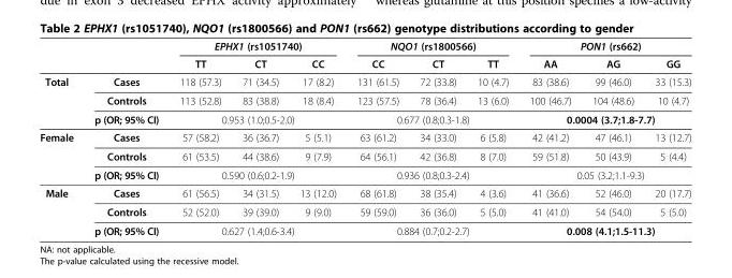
<table><thead><tr><td rowspan="2"></td><td rowspan="2"></td><td colspan="3">EPHX1 (rs1051740)</td><td colspan="3">NQO1 (rs1800566)</td><td colspan="3">PON1 (rs662)</td></tr><tr><td>TT</td><td>CT</td><td>CC</td><td>CC</td><td>CT</td><td>TT</td><td>AA</td><td>AG</td><td>GG</td></tr></thead><tbody><tr><td rowspan="3">Total</td><td>Cases</td><td>118 (57.3)</td><td>71 (34.5)</td><td>17 (8.2)</td><td>131 (61.5)</td><td>72 (33.8)</td><td>10 (4.7)</td><td>83 (38.6)</td><td>99 (46.0)</td><td>33 (15.3)</td></tr><tr><td>Controls</td><td>113 (52.8)</td><td>83 (38.8)</td><td>18 (8.4)</td><td>123 (57.5)</td><td>78 (36.4)</td><td>13 (6.0)</td><td>100 (46.7)</td><td>104 (48.6)</td><td>10 (4.7)</td></tr><tr><td>p (OR; 95% CI)</td><td colspan="3">0.953 (1.0;0.5-2.0)</td><td colspan="3">0.677 (0.8;0.3-1.8)</td><td colspan="3">0.0004 (3.7;1.8-7.7)</td></tr><tr><td rowspan="3">Female</td><td>Cases</td><td>57 (58.2)</td><td>36 (36.7)</td><td>5 (5.1)</td><td>63 (61.2)</td><td>34 (33.0)</td><td>6 (5.8)</td><td>42 (41.2)</td><td>47 (46.1)</td><td>13 (12.7)</td></tr><tr><td>Controls</td><td>61 (53.5)</td><td>44 (38.6)</td><td>9 (7.9)</td><td>64 (56.1)</td><td>42 (36.8)</td><td>8 (7.0)</td><td>59 (51.8)</td><td>50 (43.9)</td><td>5 (4.4)</td></tr><tr><td>p (OR; 95% CI)</td><td colspan="3">0.590 (0.6;0.2-1.9)</td><td colspan="3">0.936 (0.8;0.3-2.4)</td><td colspan="3">0.05 (3.2;1.1-9.3)</td></tr><tr><td rowspan="3">Male</td><td>Cases</td><td>61 (56.5)</td><td>34 (31.5)</td><td>13 (12.0)</td><td>68 (61.8)</td><td>38 (35.4)</td><td>4 (3.6)</td><td>41 (36.6)</td><td>52 (46.0)</td><td>20 (17.7)</td></tr><tr><td>Controls</td><td>52 (52.0)</td><td>39 (39.0)</td><td>9 (9.0)</td><td>59 (59.0)</td><td>36 (36.0)</td><td>5 (5.0)</td><td>41 (41.0)</td><td>54 (54.0)</td><td>5 (5.0)</td></tr><tr><td>p (OR; 95% CI)</td><td colspan="3">0.627 (1.4;0.6-3.4)</td><td colspan="3">0.884 (0.7;0.2-2.7)</td><td colspan="3">0.008 (4.1;1.5-11.3)</td></tr></tbody></table>